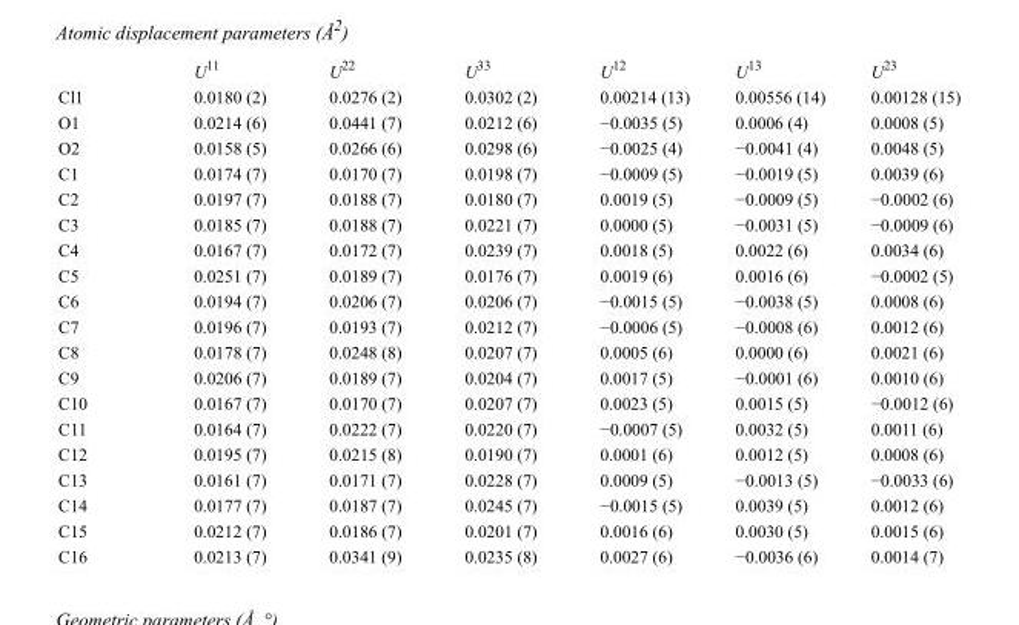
<table><thead><tr><td></td><td>U<sup>11</sup></td><td>U<sup>22</sup></td><td>U<sup>33</sup></td><td>U<sup>12</sup></td><td>U<sup>13</sup></td><td>U<sup>23</sup></td></tr></thead><tbody><tr><td>Cl1</td><td>0.0180 (2)</td><td>0.0276 (2)</td><td>0.0302 (2)</td><td>0.00214 (13)</td><td>0.00556 (14)</td><td>0.00128 (15)</td></tr><tr><td>O1</td><td>0.0214 (6)</td><td>0.0441 (7)</td><td>0.0212 (6)</td><td>−0.0035 (5)</td><td>0.0006 (4)</td><td>0.0008 (5)</td></tr><tr><td>O2</td><td>0.0158 (5)</td><td>0.0266 (6)</td><td>0.0298 (6)</td><td>−0.0025 (4)</td><td>−0.0041 (4)</td><td>0.0048 (5)</td></tr><tr><td>C1</td><td>0.0174 (7)</td><td>0.0170 (7)</td><td>0.0198 (7)</td><td>−0.0009 (5)</td><td>−0.0019 (5)</td><td>0.0039 (6)</td></tr><tr><td>C2</td><td>0.0197 (7)</td><td>0.0188 (7)</td><td>0.0180 (7)</td><td>0.0019 (5)</td><td>−0.0009 (5)</td><td>−0.0002 (6)</td></tr><tr><td>C3</td><td>0.0185 (7)</td><td>0.0188 (7)</td><td>0.0221 (7)</td><td>0.0000 (5)</td><td>−0.0031 (5)</td><td>−0.0009 (6)</td></tr><tr><td>C4</td><td>0.0167 (7)</td><td>0.0172 (7)</td><td>0.0239 (7)</td><td>0.0018 (5)</td><td>0.0022 (6)</td><td>0.0034 (6)</td></tr><tr><td>C5</td><td>0.0251 (7)</td><td>0.0189 (7)</td><td>0.0176 (7)</td><td>0.0019 (6)</td><td>0.0016 (6)</td><td>−0.0002 (5)</td></tr><tr><td>C6</td><td>0.0194 (7)</td><td>0.0206 (7)</td><td>0.0206 (7)</td><td>−0.0015 (5)</td><td>−0.0038 (5)</td><td>0.0008 (6)</td></tr><tr><td>C7</td><td>0.0196 (7)</td><td>0.0193 (7)</td><td>0.0212 (7)</td><td>−0.0006 (5)</td><td>−0.0008 (6)</td><td>0.0012 (6)</td></tr><tr><td>C8</td><td>0.0178 (7)</td><td>0.0248 (8)</td><td>0.0207 (7)</td><td>0.0005 (6)</td><td>0.0000 (6)</td><td>0.0021 (6)</td></tr><tr><td>C9</td><td>0.0206 (7)</td><td>0.0189 (7)</td><td>0.0204 (7)</td><td>0.0017 (5)</td><td>−0.0001 (6)</td><td>0.0010 (6)</td></tr><tr><td>C10</td><td>0.0167 (7)</td><td>0.0170 (7)</td><td>0.0207 (7)</td><td>0.0023 (5)</td><td>0.0015 (5)</td><td>−0.0012 (6)</td></tr><tr><td>C11</td><td>0.0164 (7)</td><td>0.0222 (7)</td><td>0.0220 (7)</td><td>−0.0007 (5)</td><td>0.0032 (5)</td><td>0.0011 (6)</td></tr><tr><td>C12</td><td>0.0195 (7)</td><td>0.0215 (8)</td><td>0.0190 (7)</td><td>0.0001 (6)</td><td>0.0012 (5)</td><td>0.0008 (6)</td></tr><tr><td>C13</td><td>0.0161 (7)</td><td>0.0171 (7)</td><td>0.0228 (7)</td><td>0.0009 (5)</td><td>−0.0013 (5)</td><td>−0.0033 (6)</td></tr><tr><td>C14</td><td>0.0177 (7)</td><td>0.0187 (7)</td><td>0.0245 (7)</td><td>−0.0015 (5)</td><td>0.0039 (5)</td><td>0.0012 (6)</td></tr><tr><td>C15</td><td>0.0212 (7)</td><td>0.0186 (7)</td><td>0.0201 (7)</td><td>0.0016 (6)</td><td>0.0030 (5)</td><td>0.0015 (6)</td></tr><tr><td>C16</td><td>0.0213 (7)</td><td>0.0341 (9)</td><td>0.0235 (8)</td><td>0.0027 (6)</td><td>−0.0036 (6)</td><td>0.0014 (7)</td></tr></tbody></table>